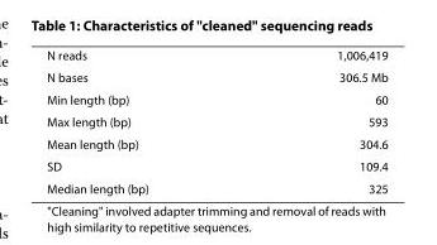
<table><tbody><tr><td>N reads</td><td>1,006,419</td></tr><tr><td>N bases</td><td>306.5 Mb</td></tr><tr><td>Min length (bp)</td><td>60</td></tr><tr><td>Max length (bp)</td><td>593</td></tr><tr><td>Mean length (bp)</td><td>304.6</td></tr><tr><td>SD</td><td>109.4</td></tr><tr><td>Median length (bp)</td><td>325</td></tr></tbody></table>